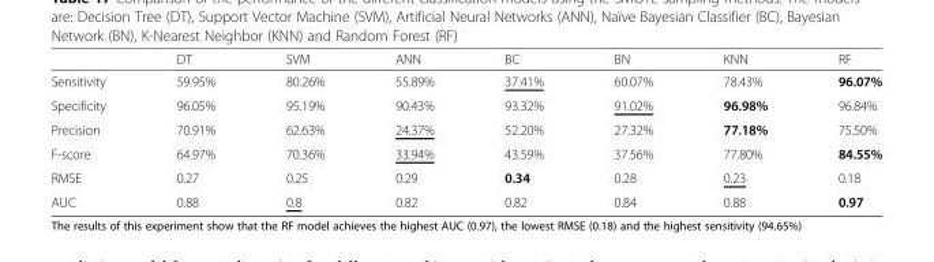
<table><thead><tr><td></td><td>DT</td><td>SVM</td><td>ANN</td><td>BC</td><td>BN</td><td>KNN</td><td>RF</td></tr></thead><tbody><tr><td>Sensitivity</td><td>59.95%</td><td>80.26%</td><td>55.89%</td><td>37.41%</td><td>60.07%</td><td>78.43%</td><td>96.07%</td></tr><tr><td>Specificity</td><td>96.05%</td><td>95.19%</td><td>90.43%</td><td>93.32%</td><td>91.02%</td><td>96.98%</td><td>96.84%</td></tr><tr><td>Precision</td><td>70.91%</td><td>62.63%</td><td>24.37%</td><td>52.20%</td><td>27.32%</td><td>77.18%</td><td>75.50%</td></tr><tr><td>F-score</td><td>64.97%</td><td>70.36%</td><td>33.94%</td><td>43.59%</td><td>37.56%</td><td>77.80%</td><td>84.55%</td></tr><tr><td>RMSE</td><td>0.27</td><td>0.25</td><td>0.29</td><td>0.34</td><td>0.28</td><td>0.23</td><td>0.18</td></tr><tr><td>AUC</td><td>0.88</td><td>0.8</td><td>0.82</td><td>0.82</td><td>0.84</td><td>0.88</td><td>0.97</td></tr></tbody></table>